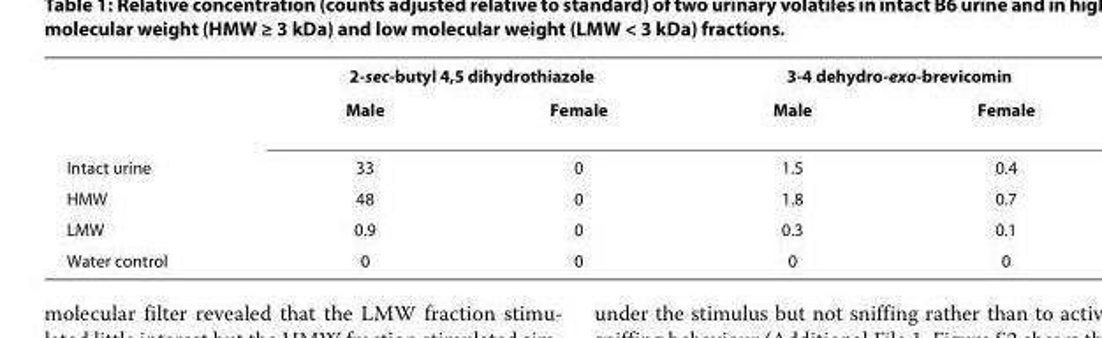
<table><thead><tr><td rowspan="2"></td><td colspan="2">2-sec-butyl 4,5 dihydrothiazole</td><td colspan="2">3-4 dehydro-exo-brevicomin</td></tr><tr><td>Male</td><td>Female</td><td>Male</td><td>Female</td></tr></thead><tbody><tr><td>Intact urine</td><td>33</td><td>0</td><td>1.5</td><td>0.4</td></tr><tr><td>HMW</td><td>48</td><td>0</td><td>1.8</td><td>0.7</td></tr><tr><td>LMW</td><td>0.9</td><td>0</td><td>0.3</td><td>0.1</td></tr><tr><td>Water control</td><td>0</td><td>0</td><td>0</td><td>0</td></tr></tbody></table>